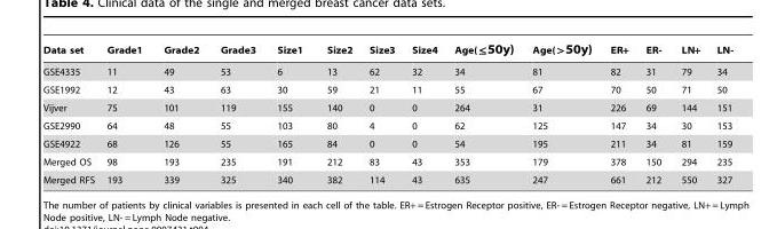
<table><thead><tr><td>Data set</td><td>Grade1</td><td>Grade2</td><td>Grade3</td><td>Size1</td><td>Size2</td><td>Size3</td><td>Size4</td><td>Age(ƒ50y)</td><td>Age(w50y)</td><td>ER+</td><td>ER-</td><td>LN+</td><td>LN-</td></tr></thead><tbody><tr><td>GSE4335</td><td>11</td><td>49</td><td>53</td><td>6</td><td>13</td><td>62</td><td>32</td><td>34</td><td>81</td><td>82</td><td>31</td><td>79</td><td>34</td></tr><tr><td>GSE1992</td><td>12</td><td>43</td><td>63</td><td>30</td><td>59</td><td>21</td><td>11</td><td>55</td><td>67</td><td>70</td><td>50</td><td>71</td><td>50</td></tr><tr><td>Vijver</td><td>75</td><td>101</td><td>119</td><td>155</td><td>140</td><td>0</td><td>0</td><td>264</td><td>31</td><td>226</td><td>69</td><td>144</td><td>151</td></tr><tr><td>GSE2990</td><td>64</td><td>48</td><td>55</td><td>103</td><td>80</td><td>4</td><td>0</td><td>62</td><td>125</td><td>147</td><td>34</td><td>30</td><td>153</td></tr><tr><td>GSE4922</td><td>68</td><td>126</td><td>55</td><td>165</td><td>84</td><td>0</td><td>0</td><td>54</td><td>195</td><td>211</td><td>34</td><td>81</td><td>159</td></tr><tr><td>Merged OS</td><td>98</td><td>193</td><td>235</td><td>191</td><td>212</td><td>83</td><td>43</td><td>353</td><td>179</td><td>378</td><td>150</td><td>294</td><td>235</td></tr><tr><td>Merged RFS</td><td>193</td><td>339</td><td>325</td><td>340</td><td>382</td><td>114</td><td>43</td><td>635</td><td>247</td><td>661</td><td>212</td><td>550</td><td>327</td></tr></tbody></table>